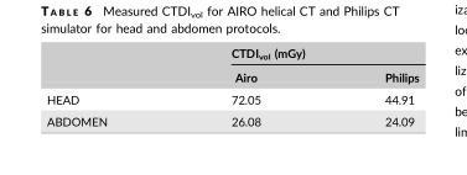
<table><thead><tr><td rowspan="2"></td><td colspan="2">CTDI<sub>vol</sub> (mGy)</td></tr><tr><td>Airo</td><td>Philips</td></tr></thead><tbody><tr><td>HEAD</td><td>72.05</td><td>44.91</td></tr><tr><td>ABDOMEN</td><td>26.08</td><td>24.09</td></tr></tbody></table>